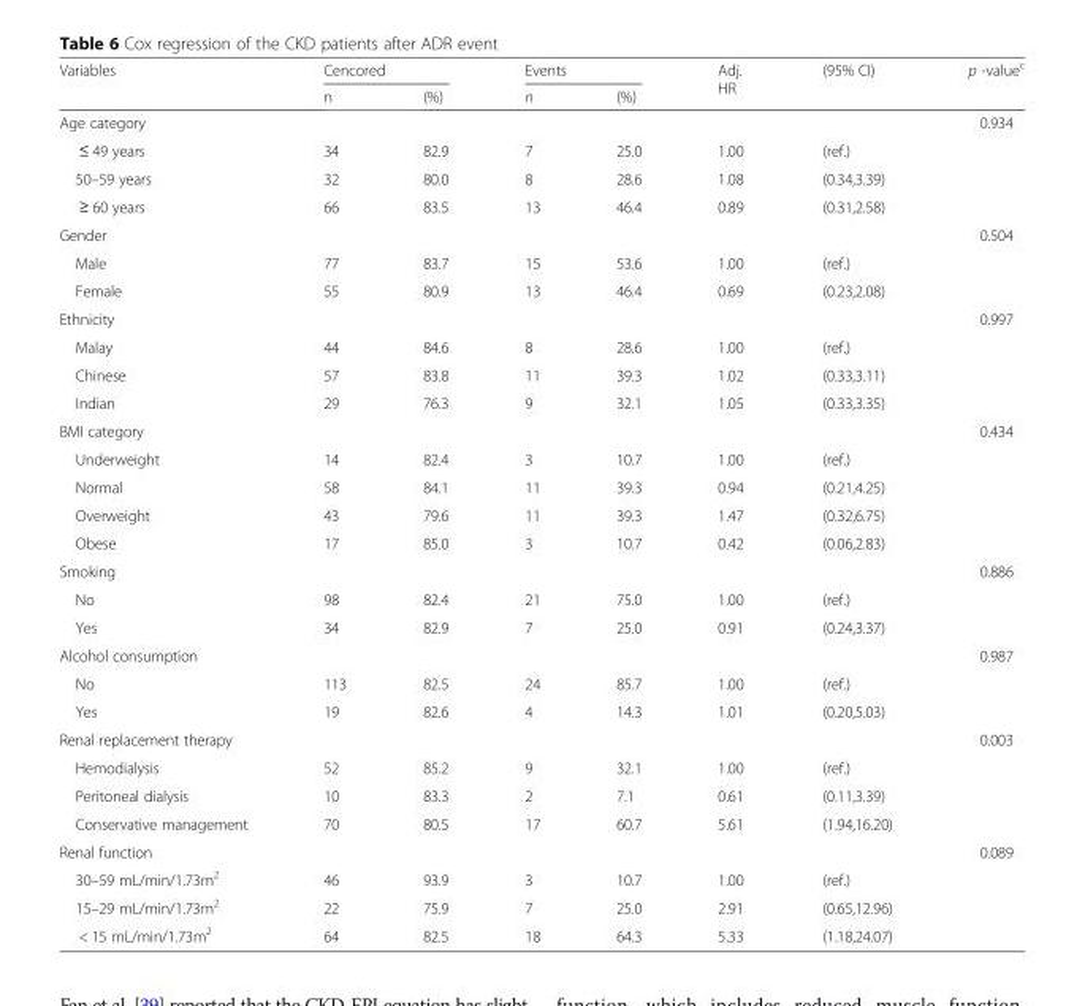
<table><thead><tr><td rowspan="2">Variables</td><td colspan="2">Cencored</td><td colspan="2">Events</td><td rowspan="2">Adj. HR</td><td rowspan="2">(95% CI)</td><td rowspan="2">p -value<sup>c</sup></td></tr><tr><td>n</td><td>(%)</td><td>n</td><td>(%)</td></tr></thead><tbody><tr><td colspan="7">Age category</td><td>0.934</td></tr><tr><td>≤ 49 years</td><td>34</td><td>82.9</td><td>7</td><td>25.0</td><td>1.00</td><td>(ref.)</td><td></td></tr><tr><td>50–59 years</td><td>32</td><td>80.0</td><td>8</td><td>28.6</td><td>1.08</td><td>(0.34,3.39)</td><td></td></tr><tr><td>≥ 60 years</td><td>66</td><td>83.5</td><td>13</td><td>46.4</td><td>0.89</td><td>(0.31,2.58)</td><td></td></tr><tr><td colspan="7">Gender</td><td>0.504</td></tr><tr><td>Male</td><td>77</td><td>83.7</td><td>15</td><td>53.6</td><td>1.00</td><td>(ref.)</td><td></td></tr><tr><td>Female</td><td>55</td><td>80.9</td><td>13</td><td>46.4</td><td>0.69</td><td>(0.23,2.08)</td><td></td></tr><tr><td colspan="7">Ethnicity</td><td>0.997</td></tr><tr><td>Malay</td><td>44</td><td>84.6</td><td>8</td><td>28.6</td><td>1.00</td><td>(ref.)</td><td></td></tr><tr><td>Chinese</td><td>57</td><td>83.8</td><td>11</td><td>39.3</td><td>1.02</td><td>(0.33,3.11)</td><td></td></tr><tr><td>Indian</td><td>29</td><td>76.3</td><td>9</td><td>32.1</td><td>1.05</td><td>(0.33,3.35)</td><td></td></tr><tr><td colspan="7">BMI category</td><td>0.434</td></tr><tr><td>Underweight</td><td>14</td><td>82.4</td><td>3</td><td>10.7</td><td>1.00</td><td>(ref.)</td><td></td></tr><tr><td>Normal</td><td>58</td><td>84.1</td><td>11</td><td>39.3</td><td>0.94</td><td>(0.21,4.25)</td><td></td></tr><tr><td>Overweight</td><td>43</td><td>79.6</td><td>11</td><td>39.3</td><td>1.47</td><td>(0.32,6.75)</td><td></td></tr><tr><td>Obese</td><td>17</td><td>85.0</td><td>3</td><td>10.7</td><td>0.42</td><td>(0.06,2.83)</td><td></td></tr><tr><td colspan="7">Smoking</td><td>0.886</td></tr><tr><td>No</td><td>98</td><td>82.4</td><td>21</td><td>75.0</td><td>1.00</td><td>(ref.)</td><td></td></tr><tr><td>Yes</td><td>34</td><td>82.9</td><td>7</td><td>25.0</td><td>0.91</td><td>(0.24,3.37)</td><td></td></tr><tr><td colspan="7">Alcohol consumption</td><td>0.987</td></tr><tr><td>No</td><td>113</td><td>82.5</td><td>24</td><td>85.7</td><td>1.00</td><td>(ref.)</td><td></td></tr><tr><td>Yes</td><td>19</td><td>82.6</td><td>4</td><td>14.3</td><td>1.01</td><td>(0.20,5.03)</td><td></td></tr><tr><td colspan="7">Renal replacement therapy</td><td>0.003</td></tr><tr><td>Hemodialysis</td><td>52</td><td>85.2</td><td>9</td><td>32.1</td><td>1.00</td><td>(ref.)</td><td></td></tr><tr><td>Peritoneal dialysis</td><td>10</td><td>83.3</td><td>2</td><td>7.1</td><td>0.61</td><td>(0.11,3.39)</td><td></td></tr><tr><td>Conservative management</td><td>70</td><td>80.5</td><td>17</td><td>60.7</td><td>5.61</td><td>(1.94,16.20)</td><td></td></tr><tr><td colspan="7">Renal function</td><td>0.089</td></tr><tr><td>30–59 mL/min/1.73m<sup>2</sup></td><td>46</td><td>93.9</td><td>3</td><td>10.7</td><td>1.00</td><td>(ref.)</td><td></td></tr><tr><td>15–29 mL/min/1.73m<sup>2</sup></td><td>22</td><td>75.9</td><td>7</td><td>25.0</td><td>2.91</td><td>(0.65,12.96)</td><td></td></tr><tr><td>&lt; 15 mL/min/1.73m<sup>2</sup></td><td>64</td><td>82.5</td><td>18</td><td>64.3</td><td>5.33</td><td>(1.18,24.07)</td><td></td></tr></tbody></table>